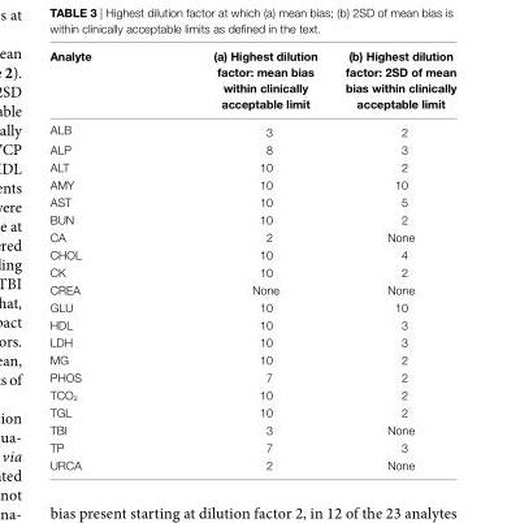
<table><thead><tr><td>analyte</td><td>(a) highest dilution factor: mean bias within clinically acceptable limit</td><td>(b) highest dilution factor: 2sD of mean bias within clinically acceptable limit</td></tr></thead><tbody><tr><td>ALB</td><td>3</td><td>2</td></tr><tr><td>ALP</td><td>8</td><td>3</td></tr><tr><td>ALT</td><td>10</td><td>2</td></tr><tr><td>AMY</td><td>10</td><td>10</td></tr><tr><td>AST</td><td>10</td><td>5</td></tr><tr><td>BUN</td><td>10</td><td>2</td></tr><tr><td>CA</td><td>2</td><td>None</td></tr><tr><td>CHOL</td><td>10</td><td>4</td></tr><tr><td>CK</td><td>10</td><td>2</td></tr><tr><td>CREA</td><td>None</td><td>None</td></tr><tr><td>GLU</td><td>10</td><td>10</td></tr><tr><td>HDL</td><td>10</td><td>3</td></tr><tr><td>LDH</td><td>10</td><td>3</td></tr><tr><td>MG</td><td>10</td><td>2</td></tr><tr><td>PHOS</td><td>7</td><td>2</td></tr><tr><td>TCO<sub>2</sub></td><td>10</td><td>2</td></tr><tr><td>TGL</td><td>10</td><td>2</td></tr><tr><td>TBI</td><td>3</td><td>None</td></tr><tr><td>TP</td><td>7</td><td>3</td></tr><tr><td>URCA</td><td>2</td><td>None</td></tr></tbody></table>